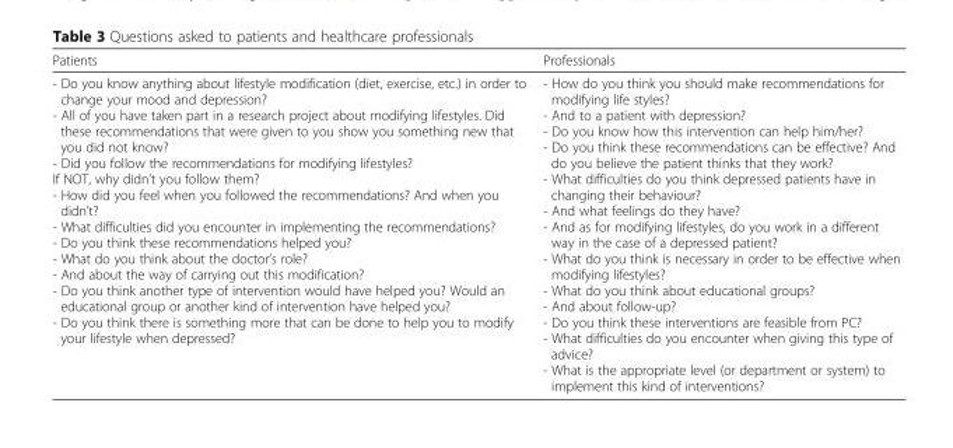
<table><thead><tr><td>Patients</td><td>Professionals</td></tr></thead><tbody><tr><td>- Do you know anything about lifestyle modification (diet, exercise, etc.) in order to change your mood and depression? - All of you have taken part in a research project about modifying lifestyles. Did these recommendations that were given to you show you something new that you did not know? - Did you follow the recommendations for modifying lifestyles? If NOT, why didn’t you follow them? - How did you feel when you followed the recommendations? And when you didn’t? - What difficulties did you encounter in implementing the recommendations? - Do you think these recommendations helped you? - What do you think about the doctor’s role? - And about the way of carrying out this modification? - Do you think another type of intervention would have helped you? Would an educational group or another kind of intervention have helped you? - Do you think there is something more that can be done to help you to modify your lifestyle when depressed?</td><td>- How do you think you should make recommendations for modifying life styles? - And to a patient with depression? - Do you know how this intervention can help him/her? - Do you think these recommendations can be effective? And do you believe the patient thinks that they work? - What difficulties do you think depressed patients have in changing their behaviour? - And what feelings do they have? - And as for modifying lifestyles, do you work in a different way in the case of a depressed patient? - What do you think is necessary in order to be effective when modifying lifestyles? - What do you think about educational groups? - And about follow-up? - Do you think these interventions are feasible from PC? - What difficulties do you encounter when giving this type of advice? - What is the appropriate level (or department or system) to implement this kind of interventions?</td></tr></tbody></table>